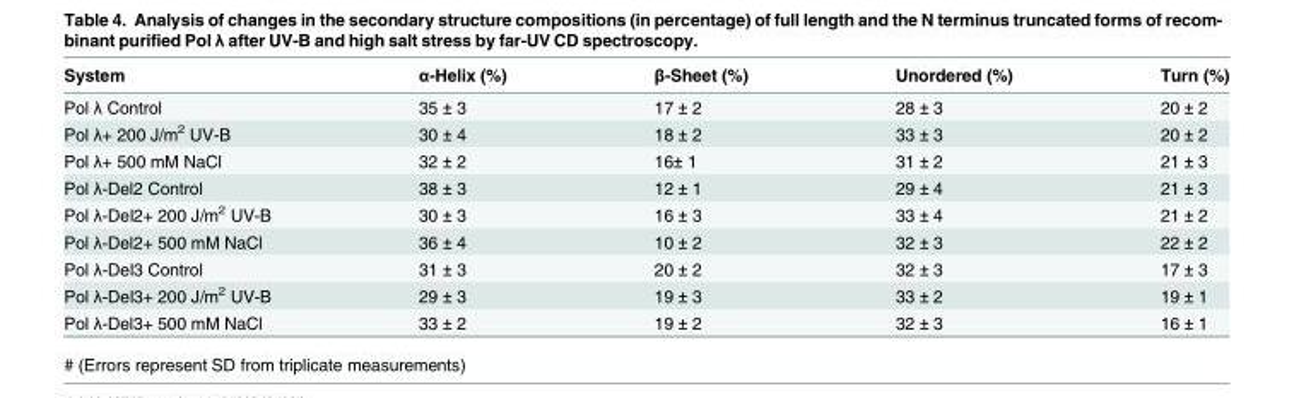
<table><thead><tr><td>System</td><td>α-Helix (%)</td><td>β-Sheet (%)</td><td>Unordered (%)</td><td>Turn (%)</td></tr></thead><tbody><tr><td>Pol λ Control</td><td>35 ± 3</td><td>17 ± 2</td><td>28 ± 3</td><td>20 ± 2</td></tr><tr><td>Pol λ+ 200 J/m<sup>2</sup> UV-B</td><td>30 ± 4</td><td>18 ± 2</td><td>33 ± 3</td><td>20 ± 2</td></tr><tr><td>Pol λ+ 500 mM NaCl</td><td>32 ± 2</td><td>16± 1</td><td>31 ± 2</td><td>21 ± 3</td></tr><tr><td>Pol λ-Del2 Control</td><td>38 ± 3</td><td>12 ± 1</td><td>29 ± 4</td><td>21 ± 3</td></tr><tr><td>Pol λ-Del2+ 200 J/m<sup>2</sup> UV-B</td><td>30 ± 3</td><td>16 ± 3</td><td>33 ± 4</td><td>21 ± 2</td></tr><tr><td>Pol λ-Del2+ 500 mM NaCl</td><td>36 ± 4</td><td>10 ± 2</td><td>32 ± 3</td><td>22 ± 2</td></tr><tr><td>Pol λ-Del3 Control</td><td>31 ± 3</td><td>20 ± 2</td><td>32 ± 3</td><td>17 ± 3</td></tr><tr><td>Pol λ-Del3+ 200 J/m<sup>2</sup> UV-B</td><td>29 ± 3</td><td>19 ± 3</td><td>33 ± 2</td><td>19 ± 1</td></tr><tr><td>Pol λ-Del3+ 500 mM NaCl</td><td>33 ± 2</td><td>19 ± 2</td><td>32 ± 3</td><td>16 ± 1</td></tr></tbody></table>